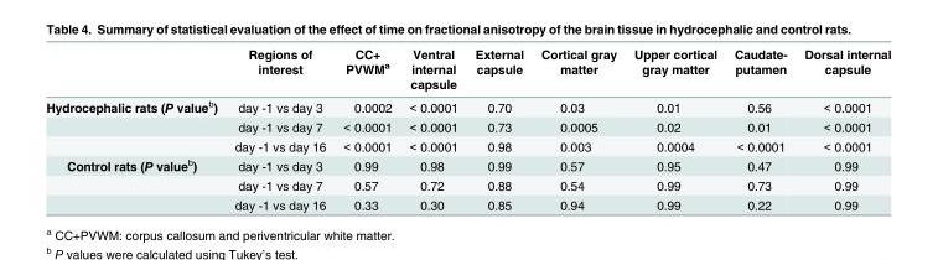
<table><thead><tr><td></td><td>Regions of interest</td><td>CC+ PVWM<sup>a</sup></td><td>Ventral internal capsule</td><td>External capsule</td><td>Cortical gray matter</td><td>Upper cortical gray matter</td><td>Caudate- putamen</td><td>Dorsal internal capsule</td></tr></thead><tbody><tr><td rowspan="3">Hydrocephalic rats (P value<sup>b</sup>)</td><td>day -1 vs day 3</td><td>0.0002</td><td>&lt; 0.0001</td><td>0.70</td><td>0.03</td><td>0.01</td><td>0.56</td><td>&lt; 0.0001</td></tr><tr><td>day -1 vs day 7</td><td>&lt; 0.0001</td><td>&lt; 0.0001</td><td>0.73</td><td>0.0005</td><td>0.02</td><td>0.01</td><td>&lt; 0.0001</td></tr><tr><td>day -1 vs day 16</td><td>&lt; 0.0001</td><td>&lt; 0.0001</td><td>0.98</td><td>0.003</td><td>0.0004</td><td>&lt; 0.0001</td><td>&lt; 0.0001</td></tr><tr><td rowspan="3">Control rats (P value<sup>b</sup>)</td><td>day -1 vs day 3</td><td>0.99</td><td>0.98</td><td>0.99</td><td>0.57</td><td>0.95</td><td>0.47</td><td>0.99</td></tr><tr><td>day -1 vs day 7</td><td>0.57</td><td>0.72</td><td>0.88</td><td>0.54</td><td>0.99</td><td>0.73</td><td>0.99</td></tr><tr><td>day -1 vs day 16</td><td>0.33</td><td>0.30</td><td>0.85</td><td>0.94</td><td>0.99</td><td>0.22</td><td>0.99</td></tr></tbody></table>